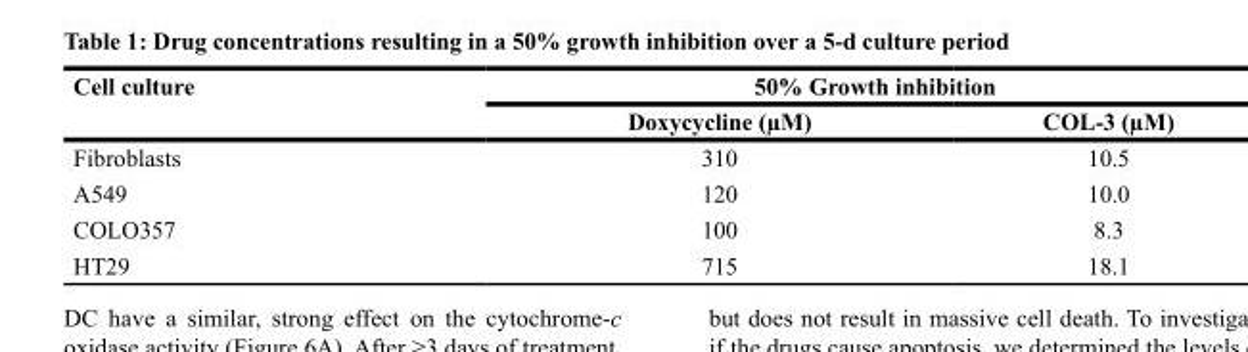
<table><thead><tr><td rowspan="2">Cell culture</td><td colspan="2">50% Growth inhibition</td></tr><tr><td>Doxycycline (µM)</td><td>COL-3 (µM)</td></tr></thead><tbody><tr><td>Fibroblasts</td><td>310</td><td>10.5</td></tr><tr><td>A549</td><td>120</td><td>10.0</td></tr><tr><td>COLO357</td><td>100</td><td>8.3</td></tr><tr><td>HT29</td><td>715</td><td>18.1</td></tr></tbody></table>